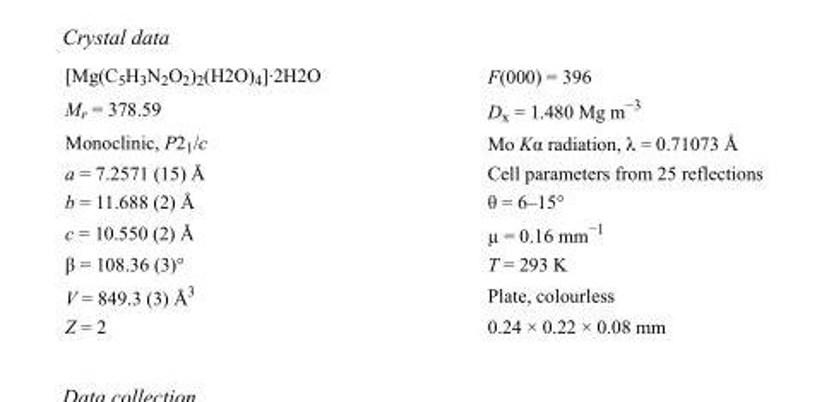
<table><tbody><tr><td>[Mg(C<sub>5</sub>H<sub>3</sub>N<sub>2</sub>O<sub>2</sub>)<sub>2</sub>(H2O)<sub>4</sub>]·2H2O</td><td>F(000) = 396</td></tr><tr><td>M<sub>r</sub> = 378.59</td><td>D<sub>x</sub> = 1.480 Mg m<sup>−3</sup></td></tr><tr><td>Monoclinic, P2<sub>1</sub>/c</td><td>Mo Kα radiation, λ = 0.71073 Å</td></tr><tr><td>a = 7.2571 (15) Å</td><td>Cell parameters from 25 reflections</td></tr><tr><td>b = 11.688 (2) Å</td><td>θ = 6–15°</td></tr><tr><td>c = 10.550 (2) Å</td><td>µ = 0.16 mm<sup>−1</sup></td></tr><tr><td>β = 108.36 (3)°</td><td>T = 293 K</td></tr><tr><td>V = 849.3 (3) Å<sup>3</sup></td><td>Plate, colourless</td></tr><tr><td>Z = 2</td><td>0.24 × 0.22 × 0.08 mm</td></tr></tbody></table>